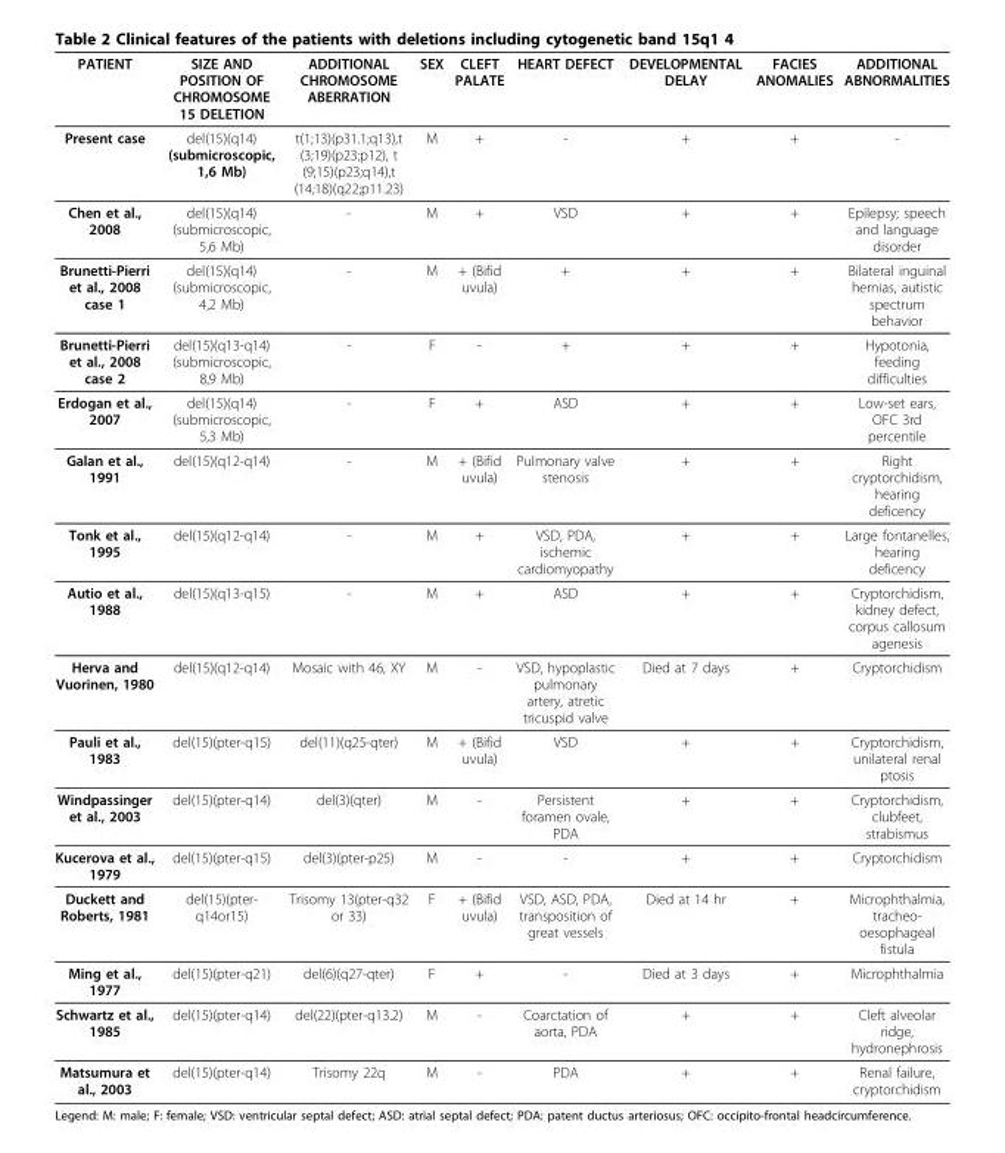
<table><thead><tr><td>PATIENT</td><td>SIZE AND POSITION OF CHROMOSOME 15 DELETION</td><td>ADDITIONAL CHROMOSOME ABERRATION</td><td>SEX</td><td>CLEFT PALATE</td><td>HEART DEFECT</td><td>DEVELOPMENTAL DELAY</td><td>FACIES ANOMALIES</td><td>ADDITIONAL ABNORMALITIES</td></tr></thead><tbody><tr><td>Present case</td><td>del(15)(q14) (submicroscopic, 1,6 Mb)</td><td>t(1;13)(p31.1;q13),t (3;19)(p23;p12), t (9;15)(p23;q14),t (14;18)(q22;p11.23)</td><td>M</td><td>+</td><td>-</td><td>+</td><td>+</td><td>-</td></tr><tr><td>Chen et al., 2008</td><td>del(15)(q14) (submicroscopic, 5,6 Mb)</td><td>-</td><td>M</td><td>+</td><td>VSD</td><td>+</td><td>+</td><td>Epilepsy; speech and language disorder</td></tr><tr><td>Brunetti-Pierri et al., 2008 case 1</td><td>del(15)(q14) (submicroscopic, 4,2 Mb)</td><td>-</td><td>M</td><td>+ (Bifid uvula)</td><td>+</td><td>+</td><td>+</td><td>Bilateral inguinal hernias, autistic spectrum behavior</td></tr><tr><td>Brunetti-Pierri et al., 2008 case 2</td><td>del(15)(q13-q14) (submicroscopic, 8,9 Mb)</td><td>-</td><td>F</td><td>-</td><td>+</td><td>+</td><td>+</td><td>Hypotonia, feeding difficulties</td></tr><tr><td>Erdogan et al., 2007</td><td>del(15)(q14) (submicroscopic, 5,3 Mb)</td><td>-</td><td>F</td><td>+</td><td>ASD</td><td>+</td><td>+</td><td>Low-set ears, OFC 3rd percentile</td></tr><tr><td>Galan et al., 1991</td><td>del(15)(q12-q14)</td><td>-</td><td>M</td><td>+ (Bifid uvula)</td><td>Pulmonary valve stenosis</td><td>+</td><td>+</td><td>Right cryptorchidism, hearing deficency</td></tr><tr><td>Tonk et al., 1995</td><td>del(15)(q12-q14)</td><td>-</td><td>M</td><td>+</td><td>VSD, PDA, ischemic cardiomyopathy</td><td>+</td><td>+</td><td>Large fontanelles, hearing deficency</td></tr><tr><td>Autio et al., 1988</td><td>del(15)(q13-q15)</td><td>-</td><td>M</td><td>+</td><td>ASD</td><td>+</td><td>+</td><td>Cryptorchidism, kidney defect, corpus callosum agenesis</td></tr><tr><td>Herva and Vuorinen, 1980</td><td>del(15)(q12-q14)</td><td>Mosaic with 46, XY</td><td>M</td><td>-</td><td>VSD, hypoplastic pulmonary artery, atretic tricuspid valve</td><td>Died at 7 days</td><td>+</td><td>Cryptorchidism</td></tr><tr><td>Pauli et al., 1983</td><td>del(15)(pter-q15)</td><td>del(11)(q25-qter)</td><td>M</td><td>+ (Bifid uvula)</td><td>VSD</td><td>+</td><td>+</td><td>Cryptorchidism, unilateral renal ptosis</td></tr><tr><td>Windpassinger et al., 2003</td><td>del(15)(pter-q14)</td><td>del(3)(qter)</td><td>M</td><td>-</td><td>Persistent foramen ovale, PDA</td><td>+</td><td>+</td><td>Cryptorchidism, clubfeet, strabismus</td></tr><tr><td>Kucerova et al., 1979</td><td>del(15)(pter-q15)</td><td>del(3)(pter-p25)</td><td>M</td><td>-</td><td>-</td><td>+</td><td>+</td><td>Cryptorchidism</td></tr><tr><td>Duckett and Roberts, 1981</td><td>del(15)(pter- q14or15)</td><td>Trisomy 13(pter-q32 or 33)</td><td>F</td><td>+ (Bifid uvula)</td><td>VSD, ASD, PDA, transposition of great vessels</td><td>Died at 14 hr</td><td>+</td><td>Microphthalmia, tracheo- oesophageal fistula</td></tr><tr><td>Ming et al., 1977</td><td>del(15)(pter-q21)</td><td>del(6)(q27-qter)</td><td>F</td><td>+</td><td>-</td><td>Died at 3 days</td><td>+</td><td>Microphthalmia</td></tr><tr><td>Schwartz et al., 1985</td><td>del(15)(pter-q14)</td><td>del(22)(pter-q13.2)</td><td>M</td><td>-</td><td>Coarctation of aorta, PDA</td><td>+</td><td>+</td><td>Cleft alveolar ridge, hydronephrosis</td></tr><tr><td>Matsumura et al., 2003</td><td>del(15)(pter-q14)</td><td>Trisomy 22q</td><td>M</td><td>-</td><td>PDA</td><td>+</td><td>+</td><td>Renal failure, cryptorchidism</td></tr></tbody></table>